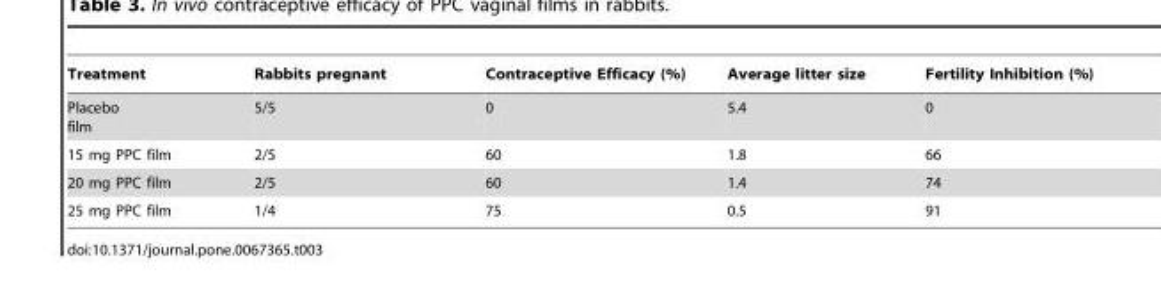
<table><thead><tr><td>Treatment</td><td>Rabbits pregnant</td><td>Contraceptive Efficacy (%)</td><td>Average litter size</td><td>Fertility Inhibition (%)</td></tr></thead><tbody><tr><td>Placebo film</td><td>5/5</td><td>0</td><td>5.4</td><td>0</td></tr><tr><td>15 mg PPC film</td><td>2/5</td><td>60</td><td>1.8</td><td>66</td></tr><tr><td>20 mg PPC film</td><td>2/5</td><td>60</td><td>1.4</td><td>74</td></tr><tr><td>25 mg PPC film</td><td>1/4</td><td>75</td><td>0.5</td><td>91</td></tr></tbody></table>